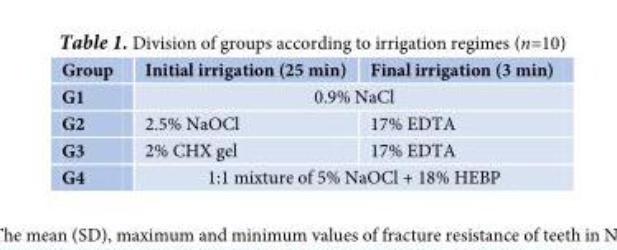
<table><thead><tr><td>Group</td><td>Initial irrigation (25 min)</td><td>Final irrigation (3 min)</td></tr></thead><tbody><tr><td>G1</td><td colspan="2">0.9% NaCl</td></tr><tr><td>G2</td><td>2.5% NaOCl</td><td>17% EDTA</td></tr><tr><td>G3</td><td>2% CHX gel</td><td>17% EDTA</td></tr><tr><td>G4</td><td colspan="2">1:1 mixture of 5% NaOCl + 18% HEBP</td></tr></tbody></table>